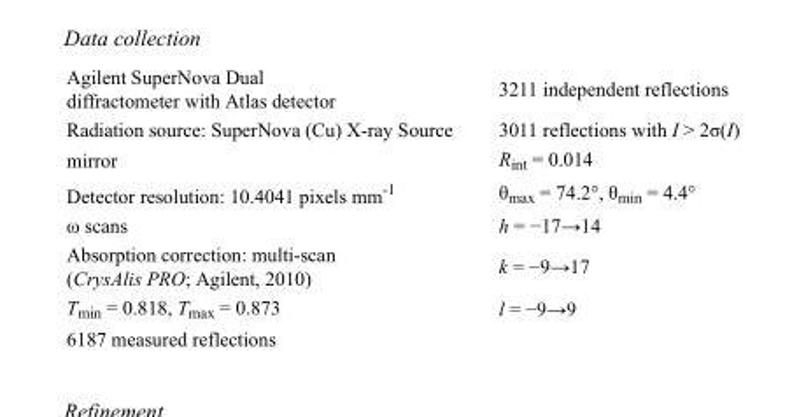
<table><tbody><tr><td>Agilent SuperNova Dual diffractometer with Atlas detector</td><td>3211 independent reflections</td></tr><tr><td>Radiation source: SuperNova (Cu) X-ray Source</td><td>3011 reflections with I &gt; 2σ(I)</td></tr><tr><td>mirror</td><td>R<sub>int</sub> = 0.014</td></tr><tr><td>Detector resolution: 10.4041 pixels mm<sup>-1</sup></td><td>θ<sub>max</sub> = 74.2°, θ<sub>min</sub> = 4.4°</td></tr><tr><td>ω scans</td><td>h = −17→14</td></tr><tr><td>Absorption correction: multi-scan (CrysAlis PRO; Agilent, 2010)</td><td>k = −9→17</td></tr><tr><td>T<sub>min</sub> = 0.818, T<sub>max</sub> = 0.873</td><td>l = −9→9</td></tr><tr><td>6187 measured reflections</td><td></td></tr></tbody></table>